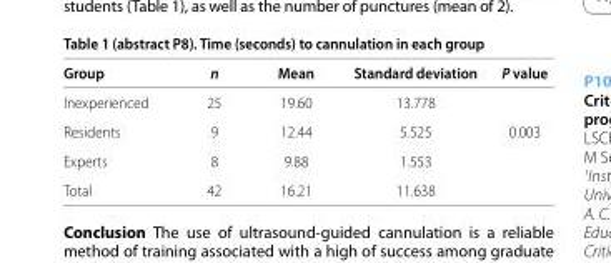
<table><thead><tr><td>Group</td><td>n</td><td>Mean</td><td>Standard deviation</td><td>P value</td></tr></thead><tbody><tr><td>Inexperienced</td><td>25</td><td>19.60</td><td>13.778</td><td></td></tr><tr><td>Residents</td><td>9</td><td>12.44</td><td>5.525</td><td>0.003</td></tr><tr><td>Experts</td><td>8</td><td>9.88</td><td>1.553</td><td></td></tr><tr><td>Total</td><td>42</td><td>16.21</td><td>11.638</td><td></td></tr></tbody></table>